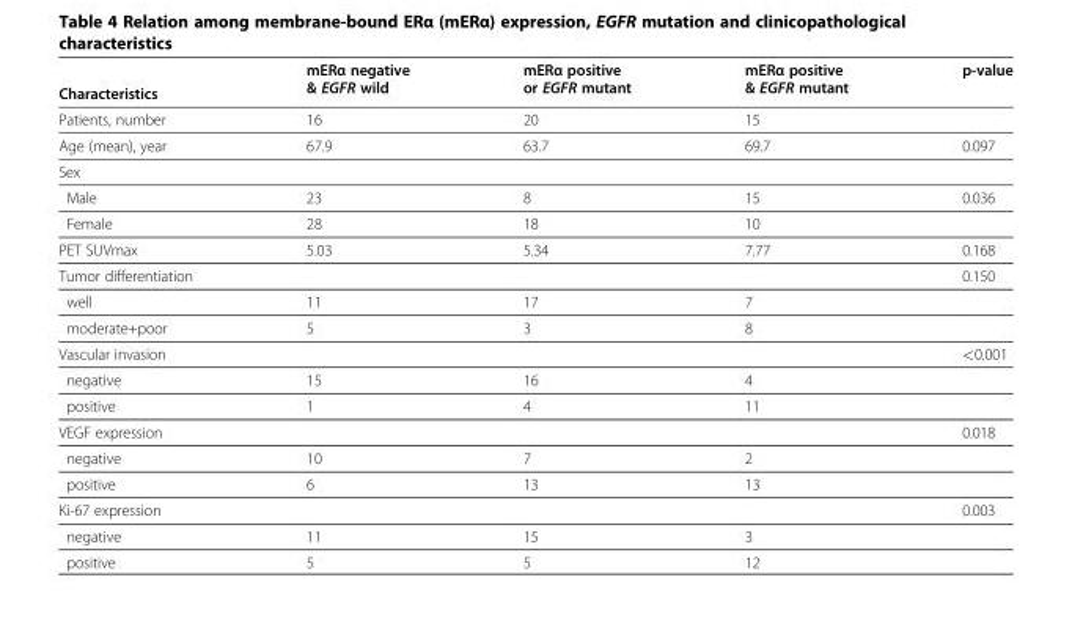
<table><thead><tr><td>Characteristics</td><td>mERα negative &amp; EGFR wild</td><td>mERα positive or EGFR mutant</td><td>mERα positive &amp; EGFR mutant</td><td>p-value</td></tr></thead><tbody><tr><td>Patients, number</td><td>16</td><td>20</td><td>15</td><td></td></tr><tr><td>Age (mean), year</td><td>67.9</td><td>63.7</td><td>69.7</td><td>0.097</td></tr><tr><td colspan="5">Sex</td></tr><tr><td>Male</td><td>23</td><td>8</td><td>15</td><td>0.036</td></tr><tr><td>Female</td><td>28</td><td>18</td><td>10</td><td></td></tr><tr><td>PET SUVmax</td><td>5.03</td><td>5.34</td><td>7.77</td><td>0.168</td></tr><tr><td>Tumor differentiation</td><td></td><td></td><td></td><td>0.150</td></tr><tr><td>well</td><td>11</td><td>17</td><td>7</td><td></td></tr><tr><td>moderate+poor</td><td>5</td><td>3</td><td>8</td><td></td></tr><tr><td>Vascular invasion</td><td></td><td></td><td></td><td>&lt;0.001</td></tr><tr><td>negative</td><td>15</td><td>16</td><td>4</td><td></td></tr><tr><td>positive</td><td>1</td><td>4</td><td>11</td><td></td></tr><tr><td>VEGF expression</td><td></td><td></td><td></td><td>0.018</td></tr><tr><td>negative</td><td>10</td><td>7</td><td>2</td><td></td></tr><tr><td>positive</td><td>6</td><td>13</td><td>13</td><td></td></tr><tr><td>Ki-67 expression</td><td></td><td></td><td></td><td>0.003</td></tr><tr><td>negative</td><td>11</td><td>15</td><td>3</td><td></td></tr><tr><td>positive</td><td>5</td><td>5</td><td>12</td><td></td></tr></tbody></table>